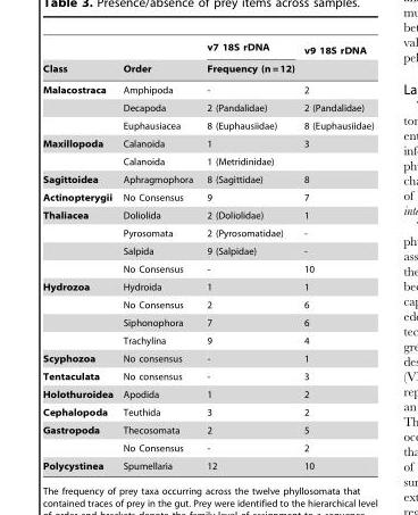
<table><thead><tr><td rowspan="2">Class</td><td rowspan="2">Order</td><td>v7 18S rDNA</td><td>v9 18S rDNA</td></tr><tr><td colspan="2">Frequency (n = 12)</td></tr></thead><tbody><tr><td rowspan="3">Malacostraca</td><td>Amphipoda</td><td>-</td><td>2</td></tr><tr><td>Decapoda</td><td>2 (Pandalidae)</td><td>2 (Pandalidae)</td></tr><tr><td>Euphausiacea</td><td>8 (Euphausiidae)</td><td>8 (Euphausiidae)</td></tr><tr><td rowspan="2">Maxillopoda</td><td>Calanoida</td><td>1</td><td>3</td></tr><tr><td>Calanoida</td><td>1 (Metridinidae)</td><td></td></tr><tr><td>Sagittoidea</td><td>Aphragmophora</td><td>8 (Sagittidae)</td><td>8</td></tr><tr><td>Actinopterygii</td><td>No Consensus</td><td>9</td><td>7</td></tr><tr><td rowspan="4">Thaliacea</td><td>Doliolida</td><td>2 (Doliolidae)</td><td>1</td></tr><tr><td>Pyrosomata</td><td>2 (Pyrosomatidae)</td><td>-</td></tr><tr><td>Salpida</td><td>9 (Salpidae)</td><td>-</td></tr><tr><td>No Consensus</td><td>-</td><td>10</td></tr><tr><td rowspan="4">Hydrozoa</td><td>Hydroida</td><td>1</td><td>1</td></tr><tr><td>No Consensus</td><td>2</td><td>6</td></tr><tr><td>Siphonophora</td><td>7</td><td>6</td></tr><tr><td>Trachylina</td><td>9</td><td>4</td></tr><tr><td>Scyphozoa</td><td>No consensus</td><td>-</td><td>1</td></tr><tr><td>Tentaculata</td><td>No consensus</td><td>-</td><td>3</td></tr><tr><td>Holothuroidea</td><td>Apodida</td><td>1</td><td>2</td></tr><tr><td>Cephalopoda</td><td>Teuthida</td><td>3</td><td>2</td></tr><tr><td rowspan="2">Gastropoda</td><td>Thecosomata</td><td>2</td><td>5</td></tr><tr><td>No Consensus</td><td>-</td><td>2</td></tr><tr><td>Polycystinea</td><td>Spumellaria</td><td>12</td><td>10</td></tr></tbody></table>